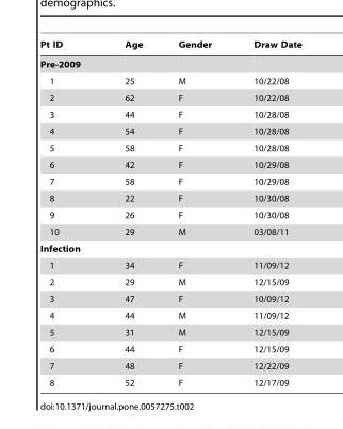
<table><thead><tr><td>Pt ID</td><td>Age</td><td>Gender</td><td>Draw Date</td></tr></thead><tbody><tr><td colspan="4">Pre-2009</td></tr><tr><td>1</td><td>25</td><td>M</td><td>10/22/08</td></tr><tr><td>2</td><td>62</td><td>F</td><td>10/22/08</td></tr><tr><td>3</td><td>44</td><td>F</td><td>10/28/08</td></tr><tr><td>4</td><td>54</td><td>F</td><td>10/28/08</td></tr><tr><td>5</td><td>58</td><td>F</td><td>10/28/08</td></tr><tr><td>6</td><td>42</td><td>F</td><td>10/29/08</td></tr><tr><td>7</td><td>58</td><td>F</td><td>10/29/08</td></tr><tr><td>8</td><td>22</td><td>F</td><td>10/30/08</td></tr><tr><td>9</td><td>26</td><td>F</td><td>10/30/08</td></tr><tr><td>10</td><td>29</td><td>M</td><td>03/08/11</td></tr><tr><td colspan="4">Infection</td></tr><tr><td>1</td><td>34</td><td>F</td><td>11/09/12</td></tr><tr><td>2</td><td>29</td><td>M</td><td>12/15/09</td></tr><tr><td>3</td><td>47</td><td>F</td><td>10/09/12</td></tr><tr><td>4</td><td>44</td><td>M</td><td>11/09/12</td></tr><tr><td>5</td><td>31</td><td>M</td><td>12/15/09</td></tr><tr><td>6</td><td>44</td><td>F</td><td>12/15/09</td></tr><tr><td>7</td><td>48</td><td>F</td><td>12/22/09</td></tr><tr><td>8</td><td>52</td><td>F</td><td>12/17/09</td></tr></tbody></table>